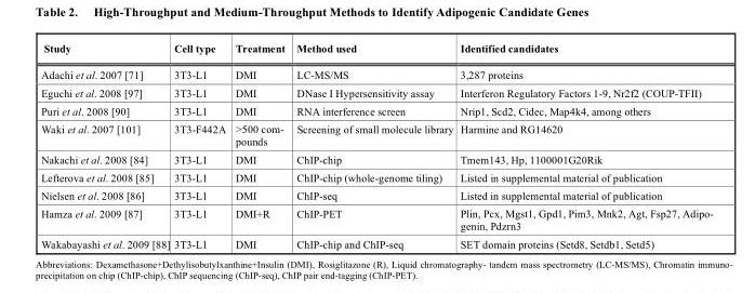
<table><thead><tr><td>Study</td><td>Cell type</td><td>Treatment</td><td>Method used</td><td>Identified candidates</td></tr></thead><tbody><tr><td>Adachi et al. 2007 [71]</td><td>3T3-L1</td><td>DMI</td><td>LC-MS/MS</td><td>3,287 proteins</td></tr><tr><td>Eguchi et al. 2008 [97]</td><td>3T3-L1</td><td>DMI</td><td>DNase I Hypersensitivity assay</td><td>Interferon Regulatory Factors 1-9, Nr2f2 (COUP-TFII)</td></tr><tr><td>Puri et al. 2008 [90]</td><td>3T3-L1</td><td>DMI</td><td>RNA interference screen</td><td>Nrip1, Scd2, Cidec, Map4k4, among others</td></tr><tr><td>Waki et al. 2007 [101]</td><td>3T3-F442A</td><td>&gt;500 com- pounds</td><td>Screening of small molecule library</td><td>Harmine and RG14620</td></tr><tr><td>Nakachi et al. 2008 [84]</td><td>3T3-L1</td><td>DMI</td><td>ChIP-chip</td><td>Tmem143, Hp, 1100001G20Rik</td></tr><tr><td>Lefterova et al. 2008 [85]</td><td>3T3-L1</td><td>DMI</td><td>ChIP-chip (whole-genome tiling)</td><td>Listed in supplemental material of publication</td></tr><tr><td>Nielsen et al. 2008 [86]</td><td>3T3-L1</td><td>DMI</td><td>ChIP-seq</td><td>Listed in supplemental material of publication</td></tr><tr><td>Hamza et al. 2009 [87]</td><td>3T3-L1</td><td>DMI+R</td><td>ChIP-PET</td><td>Plin, Pcx, Mgst1, Gpd1, Pim3, Mnk2, Agt, Fsp27, Adipo- genin, Pdzrn3</td></tr><tr><td>Wakabayashi et al. 2009 [88]</td><td>3T3-L1</td><td>DMI</td><td>ChIP-chip and ChIP-seq</td><td>SET domain proteins (Setd8, Setdb1, Setd5)</td></tr></tbody></table>